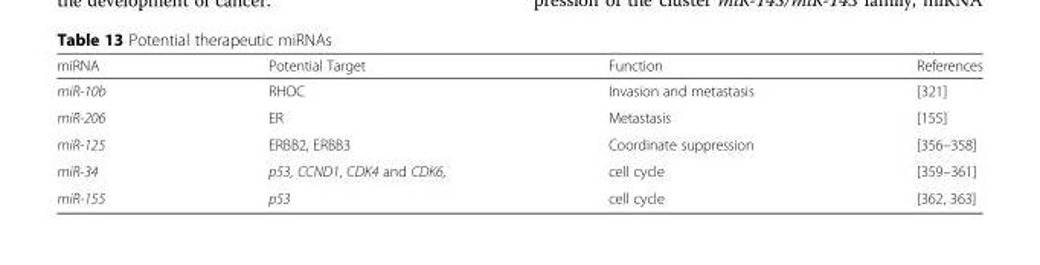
<table><thead><tr><td>miRNA</td><td>Potential Target</td><td>Function</td><td>References</td></tr></thead><tbody><tr><td>miR-10b</td><td>RHOC</td><td>Invasion and metastasis</td><td>[321]</td></tr><tr><td>miR-206</td><td>ER</td><td>Metastasis</td><td>[155]</td></tr><tr><td>miR-125</td><td>ERBB2, ERBB3</td><td>Coordinate suppression</td><td>[356–358]</td></tr><tr><td>miR-34</td><td>p53, CCND1, CDK4 and CDK6,</td><td>cell cycle</td><td>[359–361]</td></tr><tr><td>miR-155</td><td>p53</td><td>cell cycle</td><td>[362, 363]</td></tr></tbody></table>